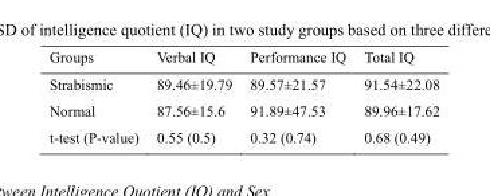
<table><thead><tr><td>Groups</td><td>Verbal IQ</td><td>Performance IQ</td><td>Total IQ</td></tr></thead><tbody><tr><td>Strabismic</td><td>89.46±19.79</td><td>89.57±21.57</td><td>91.54±22.08</td></tr><tr><td>Normal</td><td>87.56±15.6</td><td>91.89±47.53</td><td>89.96±17.62</td></tr><tr><td>t-test (P-value)</td><td>0.55 (0.5)</td><td>0.32 (0.74)</td><td>0.68 (0.49)</td></tr></tbody></table>